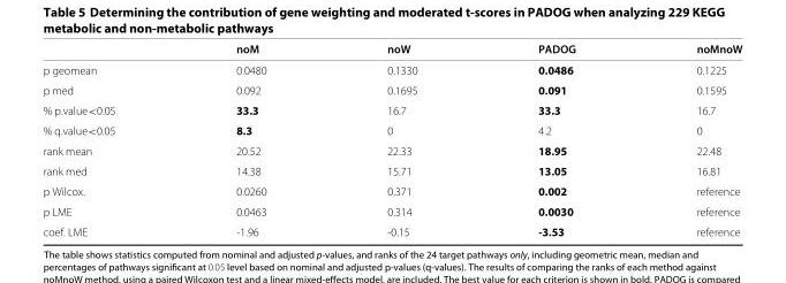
<table><thead><tr><td></td><td>noM</td><td>noW</td><td>PADOG</td><td>noMnoW</td></tr></thead><tbody><tr><td>p geomean</td><td>0.0480</td><td>0.1330</td><td>0.0486</td><td>0.1225</td></tr><tr><td>p med</td><td>0.092</td><td>0.1695</td><td>0.091</td><td>0.1595</td></tr><tr><td>% p.value&lt;0.05</td><td>33.3</td><td>16.7</td><td>33.3</td><td>16.7</td></tr><tr><td>% q.value&lt;0.05</td><td>8.3</td><td>0</td><td>4.2</td><td>0</td></tr><tr><td>rank mean</td><td>20.52</td><td>22.33</td><td>18.95</td><td>22.48</td></tr><tr><td>rank med</td><td>14.38</td><td>15.71</td><td>13.05</td><td>16.81</td></tr><tr><td>p Wilcox.</td><td>0.0260</td><td>0.371</td><td>0.002</td><td>reference</td></tr><tr><td>p LME</td><td>0.0463</td><td>0.314</td><td>0.0030</td><td>reference</td></tr><tr><td>coef. LME</td><td>-1.96</td><td>-0.15</td><td>-3.53</td><td>reference</td></tr></tbody></table>